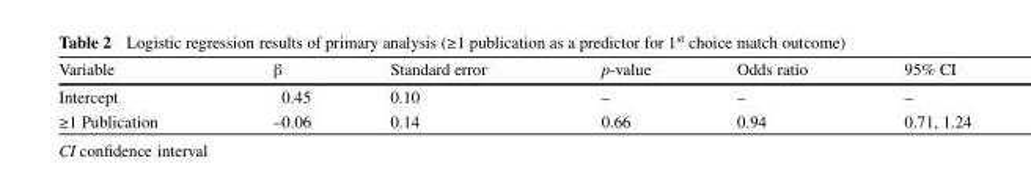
<table><thead><tr><td>Variable</td><td>β</td><td>Standard error</td><td>p-value</td><td>Odds ratio</td><td>95% CI</td></tr></thead><tbody><tr><td>Intercept</td><td>0.45</td><td>0.10</td><td>–</td><td>–</td><td>–</td></tr><tr><td>≥1 Publication</td><td>–0.06</td><td>0.14</td><td>0.66</td><td>0.94</td><td>0.71, 1.24</td></tr></tbody></table>